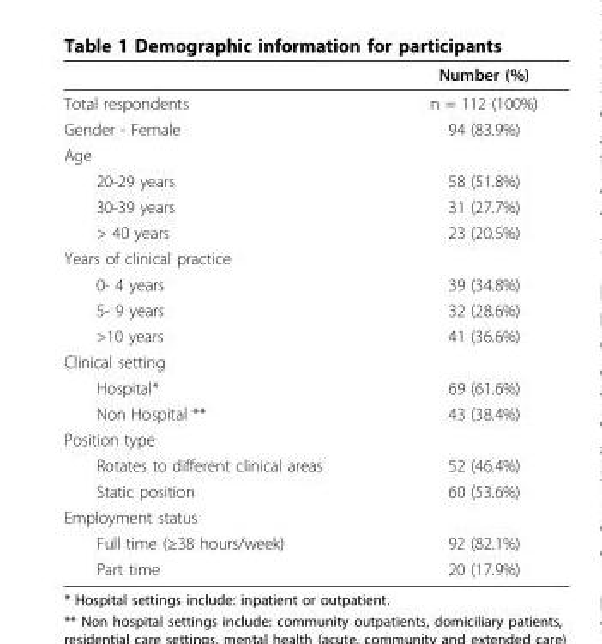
<table><thead><tr><td></td><td>Number (%)</td></tr></thead><tbody><tr><td>Total respondents</td><td>n = 112 (100%)</td></tr><tr><td>Gender - Female</td><td>94 (83.9%)</td></tr><tr><td colspan="2">Age</td></tr><tr><td>20-29 years</td><td>58 (51.8%)</td></tr><tr><td>30-39 years</td><td>31 (27.7%)</td></tr><tr><td>&gt; 40 years</td><td>23 (20.5%)</td></tr><tr><td colspan="2">Years of clinical practice</td></tr><tr><td>0- 4 years</td><td>39 (34.8%)</td></tr><tr><td>5- 9 years</td><td>32 (28.6%)</td></tr><tr><td>&gt;10 years</td><td>41 (36.6%)</td></tr><tr><td colspan="2">Clinical setting</td></tr><tr><td>Hospital*</td><td>69 (61.6%)</td></tr><tr><td>Non Hospital **</td><td>43 (38.4%)</td></tr><tr><td colspan="2">Position type</td></tr><tr><td>Rotates to different clinical areas</td><td>52 (46.4%)</td></tr><tr><td>Static position</td><td>60 (53.6%)</td></tr><tr><td colspan="2">Employment status</td></tr><tr><td>Full time (≥38 hours/week)</td><td>92 (82.1%)</td></tr><tr><td>Part time</td><td>20 (17.9%)</td></tr></tbody></table>